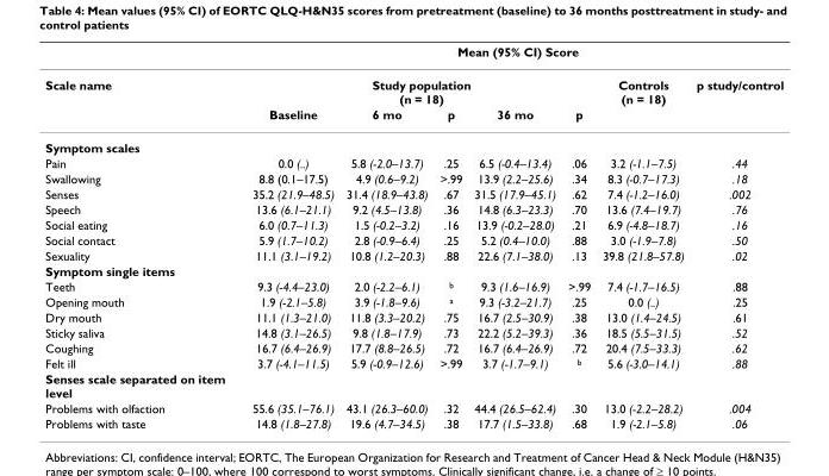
<table><thead><tr><td rowspan="3">Scale name</td><td colspan="7">Mean (95% CI) Score</td></tr><tr><td colspan="5">Study population (n = 18)</td><td rowspan="2">Controls (n = 18)</td><td rowspan="2">p study/control</td></tr><tr><td>Baseline</td><td>6 mo</td><td>p</td><td>36 mo</td><td>p</td></tr></thead><tbody><tr><td colspan="8">Symptom scales</td></tr><tr><td>Pain</td><td>0.0 (..)</td><td>5.8 (-2.0–13.7)</td><td>.25</td><td>6.5 (-0.4–13.4)</td><td>.06</td><td>3.2 (-1.1–7.5)</td><td>.44</td></tr><tr><td>Swallowing</td><td>8.8 (0.1–17.5)</td><td>4.9 (0.6–9.2)</td><td>&gt;.99</td><td>13.9 (2.2–25.6)</td><td>.34</td><td>8.3 (-0.7–17.3)</td><td>.18</td></tr><tr><td>Senses</td><td>35.2 (21.9–48.5)</td><td>31.4 (18.9–43.8)</td><td>.67</td><td>31.5 (17.9–45.1)</td><td>.62</td><td>7.4 (-1.2–16.0)</td><td>.002</td></tr><tr><td>Speech</td><td>13.6 (6.1–21.1)</td><td>9.2 (4.5–13.8)</td><td>.36</td><td>14.8 (6.3–23.3)</td><td>.70</td><td>13.6 (7.4–19.7)</td><td>.76</td></tr><tr><td>Social eating</td><td>6.0 (0.7–11.3)</td><td>1.5 (-0.2–3.2)</td><td>.16</td><td>13.9 (-0.2–28.0)</td><td>.21</td><td>6.9 (-4.8–18.7)</td><td>.16</td></tr><tr><td>Social contact</td><td>5.9 (1.7–10.2)</td><td>2.8 (-0.9–6.4)</td><td>.25</td><td>5.2 (0.4–10.0)</td><td>.88</td><td>3.0 (-1.9–7.8)</td><td>.50</td></tr><tr><td>Sexuality</td><td>11.1 (3.1–19.2)</td><td>10.8 (1.2–20.3)</td><td>.88</td><td>22.6 (7.1–38.0)</td><td>.13</td><td>39.8 (21.8–57.8)</td><td>.02</td></tr><tr><td colspan="8">Symptom single items</td></tr><tr><td>Teeth</td><td>9.3 (-4.4–23.0)</td><td>2.0 (-2.2–6.1)</td><td><sup>b</sup></td><td>9.3 (1.6–16.9)</td><td>&gt;.99</td><td>7.4 (-1.7–16.5)</td><td>.88</td></tr><tr><td>Opening mouth</td><td>1.9 (-2.1–5.8)</td><td>3.9 (-1.8–9.6)</td><td><sup>a</sup></td><td>9.3 (-3.2–21.7)</td><td>.25</td><td>0.0 (..)</td><td>.25</td></tr><tr><td>Dry mouth</td><td>11.1 (1.3–21.0)</td><td>11.8 (3.3–20.2)</td><td>.75</td><td>16.7 (2.5–30.9)</td><td>.38</td><td>13.0 (1.4–24.5)</td><td>.61</td></tr><tr><td>Sticky saliva</td><td>14.8 (3.1–26.5)</td><td>9.8 (1.8–17.9)</td><td>.73</td><td>22.2 (5.2–39.3)</td><td>.36</td><td>18.5 (5.5–31.5)</td><td>.52</td></tr><tr><td>Coughing</td><td>16.7 (6.4–26.9)</td><td>17.7 (8.8–26.5)</td><td>.72</td><td>16.7 (6.4–26.9)</td><td>.72</td><td>20.4 (7.5–33.3)</td><td>.62</td></tr><tr><td>Felt ill</td><td>3.7 (-4.1–11.5)</td><td>5.9 (-0.9–12.6)</td><td>&gt;.99</td><td>3.7 (-1.7–9.1)</td><td><sup>b</sup></td><td>5.6 (-3.0–14.1)</td><td>.88</td></tr><tr><td colspan="8">Senses scale separated on item level</td></tr><tr><td>Problems with olfaction</td><td>55.6 (35.1–76.1)</td><td>43.1 (26.3–60.0)</td><td>.32</td><td>44.4 (26.5–62.4)</td><td>.30</td><td>13.0 (-2.2–28.2)</td><td>.004</td></tr><tr><td>Problems with taste</td><td>14.8 (1.8–27.8)</td><td>19.6 (4.7–34.5)</td><td>.38</td><td>17.7 (1.5–33.8)</td><td>.68</td><td>1.9 (-2.1–5.8)</td><td>.06</td></tr></tbody></table>